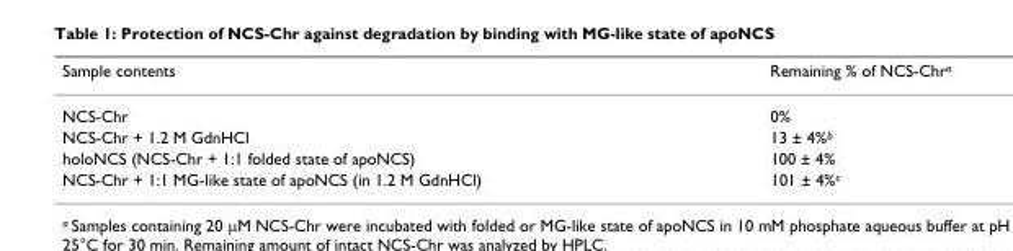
<table><thead><tr><td>Sample contents</td><td>Remaining % of NCS-Chr<sup>a</sup></td></tr></thead><tbody><tr><td>NCS-Chr</td><td>0%</td></tr><tr><td>NCS-Chr + 1.2 M GdnHCl</td><td>13 ± 4%<sup>b</sup></td></tr><tr><td>holoNCS (NCS-Chr + 1:1 folded state of apoNCS)</td><td>100 ± 4%</td></tr><tr><td>NCS-Chr + 1:1 MG-like state of apoNCS (in 1.2 M GdnHCl)</td><td>101 ± 4%<sup>c</sup></td></tr></tbody></table>